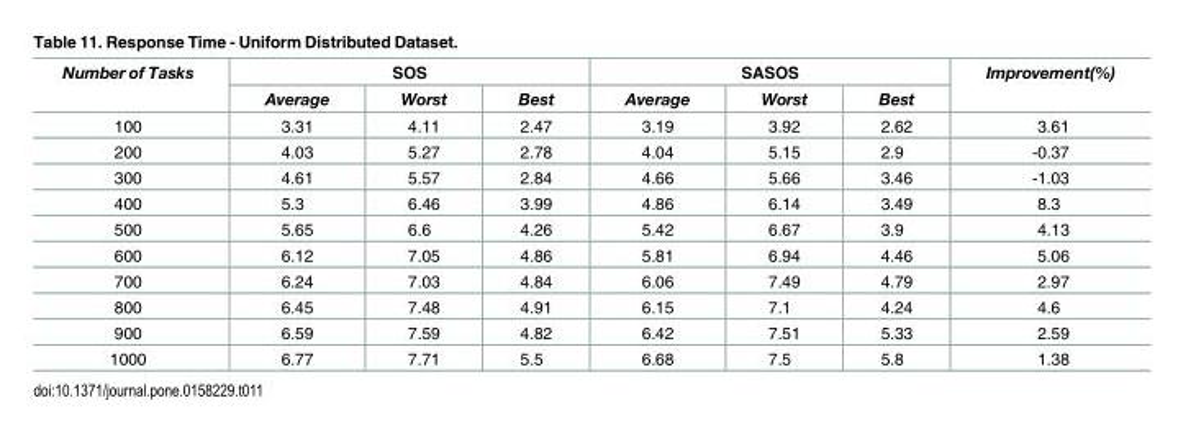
<table><thead><tr><td rowspan="2">Number of Tasks</td><td colspan="3">SOS</td><td colspan="3">SASOS</td><td rowspan="2">Improvement(%)</td></tr><tr><td>Average</td><td>Worst</td><td>Best</td><td>Average</td><td>Worst</td><td>Best</td></tr></thead><tbody><tr><td>100</td><td>3.31</td><td>4.11</td><td>2.47</td><td>3.19</td><td>3.92</td><td>2.62</td><td>3.61</td></tr><tr><td>200</td><td>4.03</td><td>5.27</td><td>2.78</td><td>4.04</td><td>5.15</td><td>2.9</td><td>-0.37</td></tr><tr><td>300</td><td>4.61</td><td>5.57</td><td>2.84</td><td>4.66</td><td>5.66</td><td>3.46</td><td>-1.03</td></tr><tr><td>400</td><td>5.3</td><td>6.46</td><td>3.99</td><td>4.86</td><td>6.14</td><td>3.49</td><td>8.3</td></tr><tr><td>500</td><td>5.65</td><td>6.6</td><td>4.26</td><td>5.42</td><td>6.67</td><td>3.9</td><td>4.13</td></tr><tr><td>600</td><td>6.12</td><td>7.05</td><td>4.86</td><td>5.81</td><td>6.94</td><td>4.46</td><td>5.06</td></tr><tr><td>700</td><td>6.24</td><td>7.03</td><td>4.84</td><td>6.06</td><td>7.49</td><td>4.79</td><td>2.97</td></tr><tr><td>800</td><td>6.45</td><td>7.48</td><td>4.91</td><td>6.15</td><td>7.1</td><td>4.24</td><td>4.6</td></tr><tr><td>900</td><td>6.59</td><td>7.59</td><td>4.82</td><td>6.42</td><td>7.51</td><td>5.33</td><td>2.59</td></tr><tr><td>1000</td><td>6.77</td><td>7.71</td><td>5.5</td><td>6.68</td><td>7.5</td><td>5.8</td><td>1.38</td></tr></tbody></table>